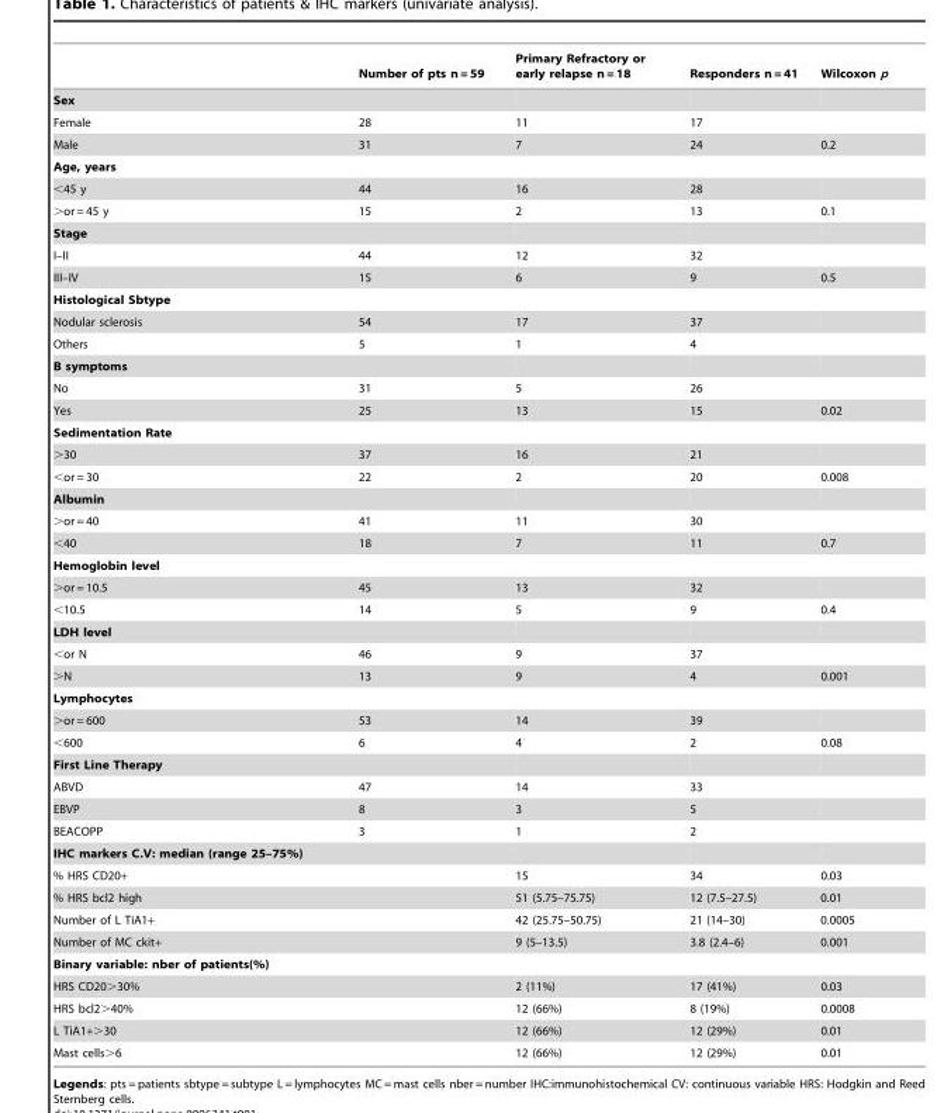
<table><thead><tr><td></td><td>Number of pts n = 59</td><td>Primary Refractory or early relapse n = 18</td><td>Responders n = 41</td><td>Wilcoxon p</td></tr></thead><tbody><tr><td colspan="5">Sex</td></tr><tr><td>Female</td><td>28</td><td>11</td><td>17</td><td></td></tr><tr><td>Male</td><td>31</td><td>7</td><td>24</td><td>0.2</td></tr><tr><td colspan="5">Age, years</td></tr><tr><td>&lt;45 y</td><td>44</td><td>16</td><td>28</td><td></td></tr><tr><td>&gt;or = 45 y</td><td>15</td><td>2</td><td>13</td><td>0.1</td></tr><tr><td colspan="5">Stage</td></tr><tr><td>I–II</td><td>44</td><td>12</td><td>32</td><td></td></tr><tr><td>III–IV</td><td>15</td><td>6</td><td>9</td><td>0.5</td></tr><tr><td colspan="5">Histological Sbtype</td></tr><tr><td>Nodular sclerosis</td><td>54</td><td>17</td><td>37</td><td></td></tr><tr><td>Others</td><td>5</td><td>1</td><td>4</td><td></td></tr><tr><td colspan="5">B symptoms</td></tr><tr><td>No</td><td>31</td><td>5</td><td>26</td><td></td></tr><tr><td>Yes</td><td>25</td><td>13</td><td>15</td><td>0.02</td></tr><tr><td colspan="5">Sedimentation Rate</td></tr><tr><td>&gt;30</td><td>37</td><td>16</td><td>21</td><td></td></tr><tr><td>&lt;or = 30</td><td>22</td><td>2</td><td>20</td><td>0.008</td></tr><tr><td colspan="5">Albumin</td></tr><tr><td>&gt;or = 40</td><td>41</td><td>11</td><td>30</td><td></td></tr><tr><td>&lt;40</td><td>18</td><td>7</td><td>11</td><td>0.7</td></tr><tr><td colspan="5">Hemoglobin level</td></tr><tr><td>&gt;or = 10.5</td><td>45</td><td>13</td><td>32</td><td></td></tr><tr><td>&lt;10.5</td><td>14</td><td>5</td><td>9</td><td>0.4</td></tr><tr><td colspan="5">LDH level</td></tr><tr><td>&lt;or N</td><td>46</td><td>9</td><td>37</td><td></td></tr><tr><td>&gt;N</td><td>13</td><td>9</td><td>4</td><td>0.001</td></tr><tr><td colspan="5">Lymphocytes</td></tr><tr><td>&gt;or = 600</td><td>53</td><td>14</td><td>39</td><td></td></tr><tr><td>&lt;600</td><td>6</td><td>4</td><td>2</td><td>0.08</td></tr><tr><td colspan="5">First Line Therapy</td></tr><tr><td>ABVD</td><td>47</td><td>14</td><td>33</td><td></td></tr><tr><td>EBVP</td><td>8</td><td>3</td><td>5</td><td></td></tr><tr><td>BEACOPP</td><td>3</td><td>1</td><td>2</td><td></td></tr><tr><td colspan="5">IHC markers C.V: median (range 25–75%)</td></tr><tr><td>% HRS CD20+</td><td></td><td>15</td><td>34</td><td>0.03</td></tr><tr><td>% HRS bcl2 high</td><td></td><td>51 (5.75–75.75)</td><td>12 (7.5–27.5)</td><td>0.01</td></tr><tr><td>Number of L TiA1+</td><td></td><td>42 (25.75–50.75)</td><td>21 (14–30)</td><td>0.0005</td></tr><tr><td>Number of MC ckit+</td><td></td><td>9 (5–13.5)</td><td>3.8 (2.4–6)</td><td>0.001</td></tr><tr><td colspan="5">Binary variable: nber of patients(%)</td></tr><tr><td>HRS CD20&gt;30%</td><td></td><td>2 (11%)</td><td>17 (41%)</td><td>0.03</td></tr><tr><td>HRS bcl2&gt;40%</td><td></td><td>12 (66%)</td><td>8 (19%)</td><td>0.0008</td></tr><tr><td>L TiA1+&gt;30</td><td></td><td>12 (66%)</td><td>12 (29%)</td><td>0.01</td></tr><tr><td>Mast cells&gt;6</td><td></td><td>12 (66%)</td><td>12 (29%)</td><td>0.01</td></tr></tbody></table>